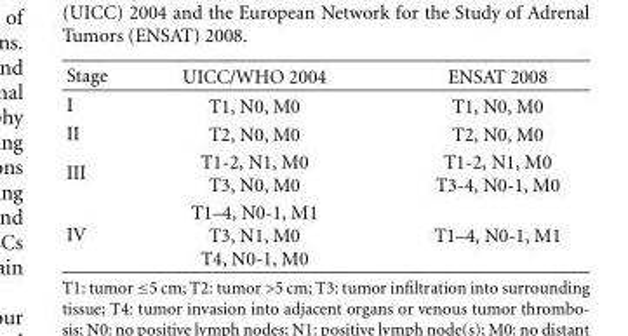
<table><thead><tr><td>Stage</td><td>UICC/WHO 2004</td><td>ENSAT 2008</td></tr></thead><tbody><tr><td>I</td><td>T1, N0, M0</td><td>T1, N0, M0</td></tr><tr><td>II</td><td>T2, N0, M0</td><td>T2, N0, M0</td></tr><tr><td>III</td><td>T1-2, N1, M0 T3, N0, M0</td><td>T1-2, N1, M0 T3-4, N0-1, M0</td></tr><tr><td>IV</td><td>T1–4, N0-1, M1 T3, N1, M0 T4, N0-1, M0</td><td>T1–4, N0-1, M1</td></tr></tbody></table>